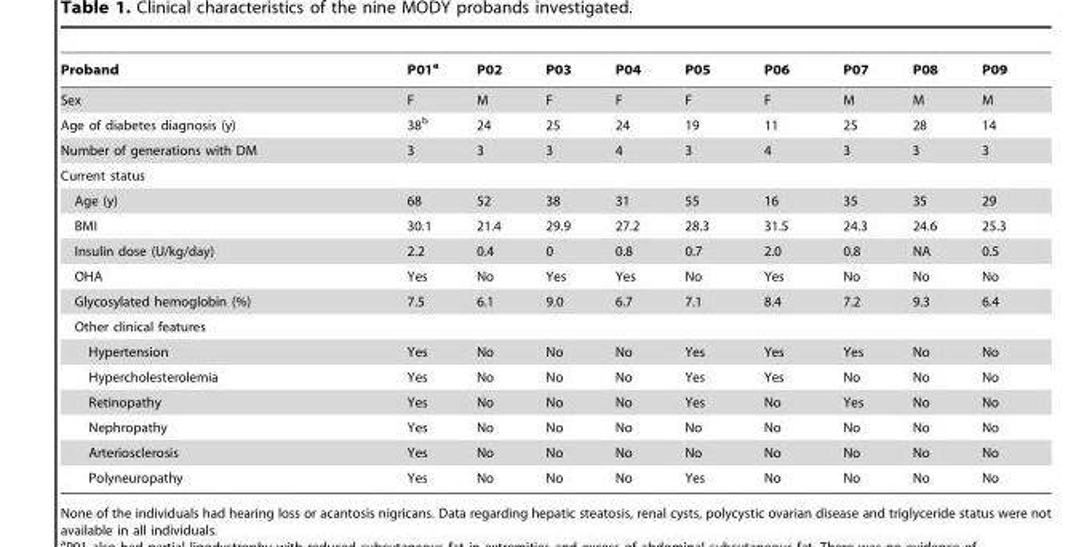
<table><thead><tr><td>Proband</td><td>P01<sup>a</sup></td><td>P02</td><td>P03</td><td>P04</td><td>P05</td><td>P06</td><td>P07</td><td>P08</td><td>P09</td></tr></thead><tbody><tr><td>Sex</td><td>F</td><td>M</td><td>F</td><td>F</td><td>F</td><td>F</td><td>M</td><td>M</td><td>M</td></tr><tr><td>Age of diabetes diagnosis (y)</td><td>38<sup>b</sup></td><td>24</td><td>25</td><td>24</td><td>19</td><td>11</td><td>25</td><td>28</td><td>14</td></tr><tr><td>Number of generations with DM</td><td>3</td><td>3</td><td>3</td><td>4</td><td>3</td><td>4</td><td>3</td><td>3</td><td>3</td></tr><tr><td colspan="10">Current status</td></tr><tr><td>Age (y)</td><td>68</td><td>52</td><td>38</td><td>31</td><td>55</td><td>16</td><td>35</td><td>35</td><td>29</td></tr><tr><td>BMI</td><td>30.1</td><td>21.4</td><td>29.9</td><td>27.2</td><td>28.3</td><td>31.5</td><td>24.3</td><td>24.6</td><td>25.3</td></tr><tr><td>Insulin dose (U/kg/day)</td><td>2.2</td><td>0.4</td><td>0</td><td>0.8</td><td>0.7</td><td>2.0</td><td>0.8</td><td>NA</td><td>0.5</td></tr><tr><td>OHA</td><td>Yes</td><td>No</td><td>Yes</td><td>Yes</td><td>No</td><td>Yes</td><td>No</td><td>No</td><td>No</td></tr><tr><td>Glycosylated hemoglobin (%)</td><td>7.5</td><td>6.1</td><td>9.0</td><td>6.7</td><td>7.1</td><td>8.4</td><td>7.2</td><td>9.3</td><td>6.4</td></tr><tr><td colspan="10">Other clinical features</td></tr><tr><td>Hypertension</td><td>Yes</td><td>No</td><td>No</td><td>No</td><td>Yes</td><td>Yes</td><td>Yes</td><td>No</td><td>No</td></tr><tr><td>Hypercholesterolemia</td><td>Yes</td><td>No</td><td>No</td><td>No</td><td>Yes</td><td>Yes</td><td>No</td><td>No</td><td>No</td></tr><tr><td>Retinopathy</td><td>Yes</td><td>No</td><td>No</td><td>No</td><td>Yes</td><td>No</td><td>Yes</td><td>No</td><td>No</td></tr><tr><td>Nephropathy</td><td>Yes</td><td>No</td><td>No</td><td>No</td><td>No</td><td>No</td><td>No</td><td>No</td><td>No</td></tr><tr><td>Arteriosclerosis</td><td>Yes</td><td>No</td><td>No</td><td>No</td><td>No</td><td>No</td><td>No</td><td>No</td><td>No</td></tr><tr><td>Polyneuropathy</td><td>Yes</td><td>No</td><td>No</td><td>No</td><td>Yes</td><td>No</td><td>No</td><td>No</td><td>No</td></tr></tbody></table>